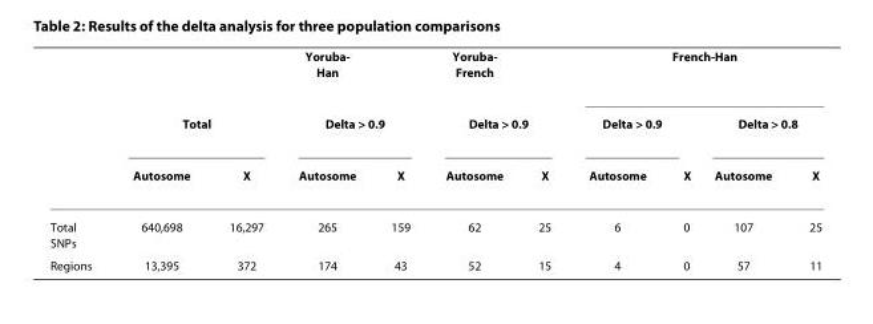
<table><thead><tr><td rowspan="3"></td><td></td><td></td><td>Yoruba- Han</td><td></td><td>Yoruba- French</td><td></td><td colspan="4">French-Han</td></tr><tr><td colspan="2">Total</td><td colspan="2">Delta &gt; 0.9</td><td colspan="2">Delta &gt; 0.9</td><td colspan="2">Delta &gt; 0.9</td><td colspan="2">Delta &gt; 0.8</td></tr><tr><td>Autosome</td><td>X</td><td>Autosome</td><td>X</td><td>Autosome</td><td>X</td><td>Autosome</td><td>X</td><td>Autosome</td><td>X</td></tr></thead><tbody><tr><td>Total SNPs</td><td>640,698</td><td>16,297</td><td>265</td><td>159</td><td>62</td><td>25</td><td>6</td><td>0</td><td>107</td><td>25</td></tr><tr><td>Regions</td><td>13,395</td><td>372</td><td>174</td><td>43</td><td>52</td><td>15</td><td>4</td><td>0</td><td>57</td><td>11</td></tr></tbody></table>